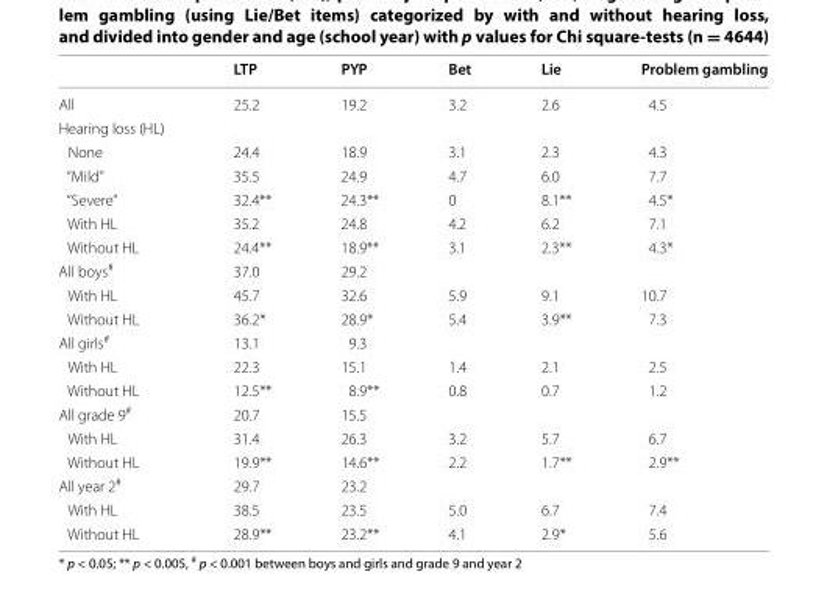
<table><thead><tr><td></td><td>LTP</td><td>PYP</td><td>Bet</td><td>Lie</td><td>Problem gambling</td></tr></thead><tbody><tr><td>All</td><td>25.2</td><td>19.2</td><td>3.2</td><td>2.6</td><td>4.5</td></tr><tr><td colspan="6">Hearing loss (HL)</td></tr><tr><td>None</td><td>24.4</td><td>18.9</td><td>3.1</td><td>2.3</td><td>4.3</td></tr><tr><td>“Mild”</td><td>35.5</td><td>24.9</td><td>4.7</td><td>6.0</td><td>7.7</td></tr><tr><td>“Severe”</td><td>32.4**</td><td>24.3**</td><td>0</td><td>8.1**</td><td>4.5*</td></tr><tr><td>With HL</td><td>35.2</td><td>24.8</td><td>4.2</td><td>6.2</td><td>7.1</td></tr><tr><td>Without HL</td><td>24.4**</td><td>18.9**</td><td>3.1</td><td>2.3**</td><td>4.3*</td></tr><tr><td>All boys<sup>#</sup></td><td>37.0</td><td>29.2</td><td></td><td></td><td></td></tr><tr><td>With HL</td><td>45.7</td><td>32.6</td><td>5.9</td><td>9.1</td><td>10.7</td></tr><tr><td>Without HL</td><td>36.2*</td><td>28.9*</td><td>5.4</td><td>3.9**</td><td>7.3</td></tr><tr><td>All girls<sup>#</sup></td><td>13.1</td><td>9.3</td><td></td><td></td><td></td></tr><tr><td>With HL</td><td>22.3</td><td>15.1</td><td>1.4</td><td>2.1</td><td>2.5</td></tr><tr><td>Without HL</td><td>12.5**</td><td>8.9**</td><td>0.8</td><td>0.7</td><td>1.2</td></tr><tr><td>All grade 9<sup>#</sup></td><td>20.7</td><td>15.5</td><td></td><td></td><td></td></tr><tr><td>With HL</td><td>31.4</td><td>26.3</td><td>3.2</td><td>5.7</td><td>6.7</td></tr><tr><td>Without HL</td><td>19.9**</td><td>14.6**</td><td>2.2</td><td>1.7**</td><td>2.9**</td></tr><tr><td>All year 2<sup>#</sup></td><td>29.7</td><td>23.2</td><td></td><td></td><td></td></tr><tr><td>With HL</td><td>38.5</td><td>23.5</td><td>5.0</td><td>6.7</td><td>7.4</td></tr><tr><td>Without HL</td><td>28.9**</td><td>23.2**</td><td>4.1</td><td>2.9*</td><td>5.6</td></tr></tbody></table>